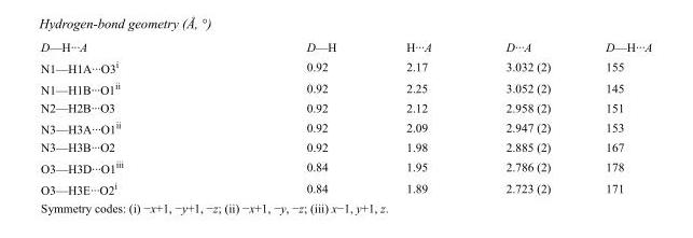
<table><tbody><tr><td>D—H···A</td><td>D—H</td><td>H···A</td><td>D···A</td><td>D—H···A</td></tr><tr><td>N1—H1A···O3<sup>i</sup></td><td>0.92</td><td>2.17</td><td>3.032 (2)</td><td>155</td></tr><tr><td>N1—H1B···O1<sup>ii</sup></td><td>0.92</td><td>2.25</td><td>3.052 (2)</td><td>145</td></tr><tr><td>N2—H2B···O3</td><td>0.92</td><td>2.12</td><td>2.958 (2)</td><td>151</td></tr><tr><td>N3—H3A···O1<sup>ii</sup></td><td>0.92</td><td>2.09</td><td>2.947 (2)</td><td>153</td></tr><tr><td>N3—H3B···O2</td><td>0.92</td><td>1.98</td><td>2.885 (2)</td><td>167</td></tr><tr><td>O3—H3D···O1<sup>iii</sup></td><td>0.84</td><td>1.95</td><td>2.786 (2)</td><td>178</td></tr><tr><td>O3—H3E···O2<sup>i</sup></td><td>0.84</td><td>1.89</td><td>2.723 (2)</td><td>171</td></tr></tbody></table>